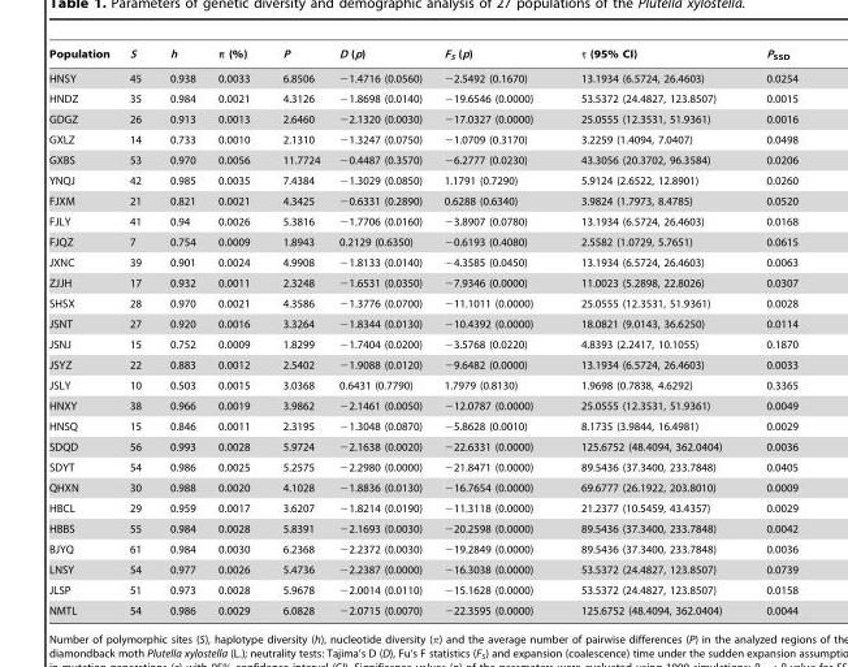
<table><thead><tr><td>Population</td><td>S</td><td>h</td><td>π (%)</td><td>P</td><td>D (p)</td><td>F<sub>S</sub> (p)</td><td>τ (95% CI)</td><td>P<sub>SSD</sub></td></tr></thead><tbody><tr><td>HNSY</td><td>45</td><td>0.938</td><td>0.0033</td><td>6.8506</td><td>−1.4716 (0.0560)</td><td>−2.5492 (0.1670)</td><td>13.1934 (6.5724, 26.4603)</td><td>0.0254</td></tr><tr><td>HNDZ</td><td>35</td><td>0.984</td><td>0.0021</td><td>4.3126</td><td>−1.8698 (0.0140)</td><td>−19.6546 (0.0000)</td><td>53.5372 (24.4827, 123.8507)</td><td>0.0015</td></tr><tr><td>GDGZ</td><td>26</td><td>0.913</td><td>0.0013</td><td>2.6460</td><td>−2.1320 (0.0030)</td><td>−17.0327 (0.0000)</td><td>25.0555 (12.3531, 51.9361)</td><td>0.0016</td></tr><tr><td>GXLZ</td><td>14</td><td>0.733</td><td>0.0010</td><td>2.1310</td><td>−1.3247 (0.0750)</td><td>−1.0709 (0.3170)</td><td>3.2259 (1.4094, 7.0407)</td><td>0.0498</td></tr><tr><td>GXBS</td><td>53</td><td>0.970</td><td>0.0056</td><td>11.7724</td><td>−0.4487 (0.3570)</td><td>−6.2777 (0.0230)</td><td>43.3056 (20.3702, 96.3584)</td><td>0.0206</td></tr><tr><td>YNQJ</td><td>42</td><td>0.985</td><td>0.0035</td><td>7.4384</td><td>−1.3029 (0.0850)</td><td>1.1791 (0.7290)</td><td>5.9124 (2.6522, 12.8901)</td><td>0.0260</td></tr><tr><td>FJXM</td><td>21</td><td>0.821</td><td>0.0021</td><td>4.3425</td><td>−0.6331 (0.2890)</td><td>0.6288 (0.6340)</td><td>3.9824 (1.7973, 8.4785)</td><td>0.0520</td></tr><tr><td>FJLY</td><td>41</td><td>0.94</td><td>0.0026</td><td>5.3816</td><td>−1.7706 (0.0160)</td><td>−3.8907 (0.0780)</td><td>13.1934 (6.5724, 26.4603)</td><td>0.0168</td></tr><tr><td>FJQZ</td><td>7</td><td>0.754</td><td>0.0009</td><td>1.8943</td><td>0.2129 (0.6350)</td><td>−0.6193 (0.4080)</td><td>2.5582 (1.0729, 5.7651)</td><td>0.0615</td></tr><tr><td>JXNC</td><td>39</td><td>0.901</td><td>0.0024</td><td>4.9908</td><td>−1.8133 (0.0140)</td><td>−4.3585 (0.0450)</td><td>13.1934 (6.5724, 26.4603)</td><td>0.0063</td></tr><tr><td>ZJJH</td><td>17</td><td>0.932</td><td>0.0011</td><td>2.3248</td><td>−1.6531 (0.0350)</td><td>−7.9346 (0.0000)</td><td>11.0023 (5.2898, 22.8026)</td><td>0.0307</td></tr><tr><td>SHSX</td><td>28</td><td>0.970</td><td>0.0021</td><td>4.3586</td><td>−1.3776 (0.0700)</td><td>−11.1011 (0.0000)</td><td>25.0555 (12.3531, 51.9361)</td><td>0.0028</td></tr><tr><td>JSNT</td><td>27</td><td>0.920</td><td>0.0016</td><td>3.3264</td><td>−1.8344 (0.0130)</td><td>−10.4392 (0.0000)</td><td>18.0821 (9.0143, 36.6250)</td><td>0.0114</td></tr><tr><td>JSNJ</td><td>15</td><td>0.752</td><td>0.0009</td><td>1.8299</td><td>−1.7404 (0.0200)</td><td>−3.5768 (0.0220)</td><td>4.8393 (2.2417, 10.1055)</td><td>0.1870</td></tr><tr><td>JSYZ</td><td>22</td><td>0.883</td><td>0.0012</td><td>2.5402</td><td>−1.9088 (0.0120)</td><td>−9.6482 (0.0000)</td><td>13.1934 (6.5724, 26.4603)</td><td>0.0033</td></tr><tr><td>JSLY</td><td>10</td><td>0.503</td><td>0.0015</td><td>3.0368</td><td>0.6431 (0.7790)</td><td>1.7979 (0.8130)</td><td>1.9698 (0.7838, 4.6292)</td><td>0.3365</td></tr><tr><td>HNXY</td><td>38</td><td>0.966</td><td>0.0019</td><td>3.9862</td><td>−2.1461 (0.0050)</td><td>−12.0787 (0.0000)</td><td>25.0555 (12.3531, 51.9361)</td><td>0.0049</td></tr><tr><td>HNSQ</td><td>15</td><td>0.846</td><td>0.0011</td><td>2.3195</td><td>−1.3048 (0.0870)</td><td>−5.8628 (0.0010)</td><td>8.1735 (3.9844, 16.4981)</td><td>0.0029</td></tr><tr><td>SDQD</td><td>56</td><td>0.993</td><td>0.0028</td><td>5.9724</td><td>−2.1638 (0.0020)</td><td>−22.6331 (0.0000)</td><td>125.6752 (48.4094, 362.0404)</td><td>0.0036</td></tr><tr><td>SDYT</td><td>54</td><td>0.986</td><td>0.0025</td><td>5.2575</td><td>−2.2980 (0.0000)</td><td>−21.8471 (0.0000)</td><td>89.5436 (37.3400, 233.7848)</td><td>0.0405</td></tr><tr><td>QHXN</td><td>30</td><td>0.988</td><td>0.0020</td><td>4.1028</td><td>−1.8836 (0.0130)</td><td>−16.7654 (0.0000)</td><td>69.6777 (26.1922, 203.8010)</td><td>0.0009</td></tr><tr><td>HBCL</td><td>29</td><td>0.959</td><td>0.0017</td><td>3.6207</td><td>−1.8214 (0.0190)</td><td>−11.3118 (0.0000)</td><td>21.2377 (10.5459, 43.4357)</td><td>0.0029</td></tr><tr><td>HBBS</td><td>55</td><td>0.984</td><td>0.0028</td><td>5.8391</td><td>−2.1693 (0.0030)</td><td>−20.2598 (0.0000)</td><td>89.5436 (37.3400, 233.7848)</td><td>0.0042</td></tr><tr><td>BJYQ</td><td>61</td><td>0.984</td><td>0.0030</td><td>6.2368</td><td>−2.2372 (0.0030)</td><td>−19.2849 (0.0000)</td><td>89.5436 (37.3400, 233.7848)</td><td>0.0036</td></tr><tr><td>LNSY</td><td>54</td><td>0.977</td><td>0.0026</td><td>5.4736</td><td>−2.2387 (0.0000)</td><td>−16.3038 (0.0000)</td><td>53.5372 (24.4827, 123.8507)</td><td>0.0739</td></tr><tr><td>JLSP</td><td>51</td><td>0.973</td><td>0.0028</td><td>5.9678</td><td>−2.0014 (0.0110)</td><td>−15.1628 (0.0000)</td><td>53.5372 (24.4827, 123.8507)</td><td>0.0158</td></tr><tr><td>NMTL</td><td>54</td><td>0.986</td><td>0.0029</td><td>6.0828</td><td>−2.0715 (0.0070)</td><td>−22.3595 (0.0000)</td><td>125.6752 (48.4094, 362.0404)</td><td>0.0044</td></tr></tbody></table>